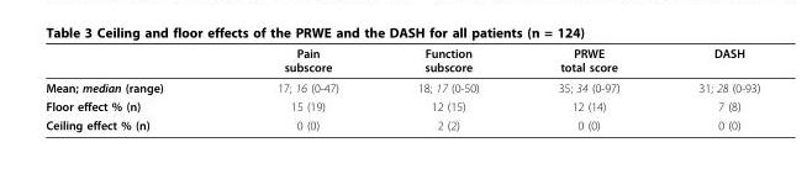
<table><thead><tr><td></td><td>Pain subscore</td><td>Function subscore</td><td>PRWE total score</td><td>DASH</td></tr></thead><tbody><tr><td>Mean; median (range)</td><td>17; 16 (0-47)</td><td>18; 17 (0-50)</td><td>35; 34 (0-97)</td><td>31; 28 (0-93)</td></tr><tr><td>Floor effect % (n)</td><td>15 (19)</td><td>12 (15)</td><td>12 (14)</td><td>7 (8)</td></tr><tr><td>Ceiling effect % (n)</td><td>0 (0)</td><td>2 (2)</td><td>0 (0)</td><td>0 (0)</td></tr></tbody></table>